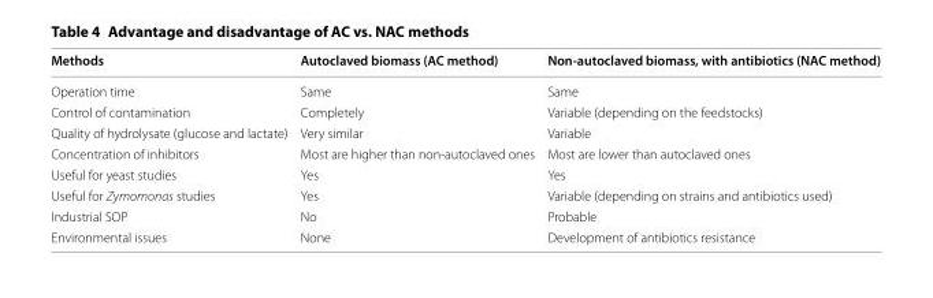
<table><thead><tr><td>Methods</td><td>Autoclaved biomass (AC method)</td><td>Non-autoclaved biomass, with antibiotics (NAC method)</td></tr></thead><tbody><tr><td>Operation time</td><td>Same</td><td>Same</td></tr><tr><td>Control of contamination</td><td>Completely</td><td>Variable (depending on the feedstocks)</td></tr><tr><td>Quality of hydrolysate (glucose and lactate)</td><td>Very similar</td><td>Variable</td></tr><tr><td>Concentration of inhibitors</td><td>Most are higher than non-autoclaved ones</td><td>Most are lower than autoclaved ones</td></tr><tr><td>Useful for yeast studies</td><td>Yes</td><td>Yes</td></tr><tr><td>Useful for Zymomonas studies</td><td>Yes</td><td>Variable (depending on strains and antibiotics used)</td></tr><tr><td>Industrial SOP</td><td>No</td><td>Probable</td></tr><tr><td>Environmental issues</td><td>None</td><td>Development of antibiotics resistance</td></tr></tbody></table>